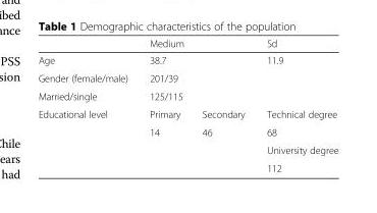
<table><thead><tr><td></td><td colspan="2">Medium</td><td>Sd</td></tr></thead><tbody><tr><td>Age</td><td colspan="2">38.7</td><td>11.9</td></tr><tr><td>Gender (female/male)</td><td colspan="3">201/39</td></tr><tr><td>Married/single</td><td colspan="3">125/115</td></tr><tr><td rowspan="4">Educational level</td><td>Primary</td><td>Secondary</td><td>Technical degree</td></tr><tr><td rowspan="3">14</td><td rowspan="3">46</td><td>68</td></tr><tr><td>University degree</td></tr><tr><td>112</td></tr></tbody></table>